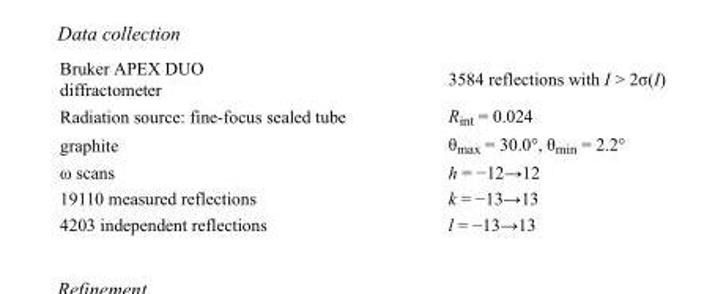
<table><tbody><tr><td>Bruker APEX DUO diffractometer</td><td>3584 reflections with I &gt; 2σ(I)</td></tr><tr><td>Radiation source: fine-focus sealed tube</td><td>R<sub>int</sub> = 0.024</td></tr><tr><td>graphite</td><td>θ<sub>max</sub> = 30.0°, θ<sub>min</sub> = 2.2°</td></tr><tr><td>ω scans</td><td>h = −12→12</td></tr><tr><td>19110 measured reflections</td><td>k = −13→13</td></tr><tr><td>4203 independent reflections</td><td>l = −13→13</td></tr></tbody></table>